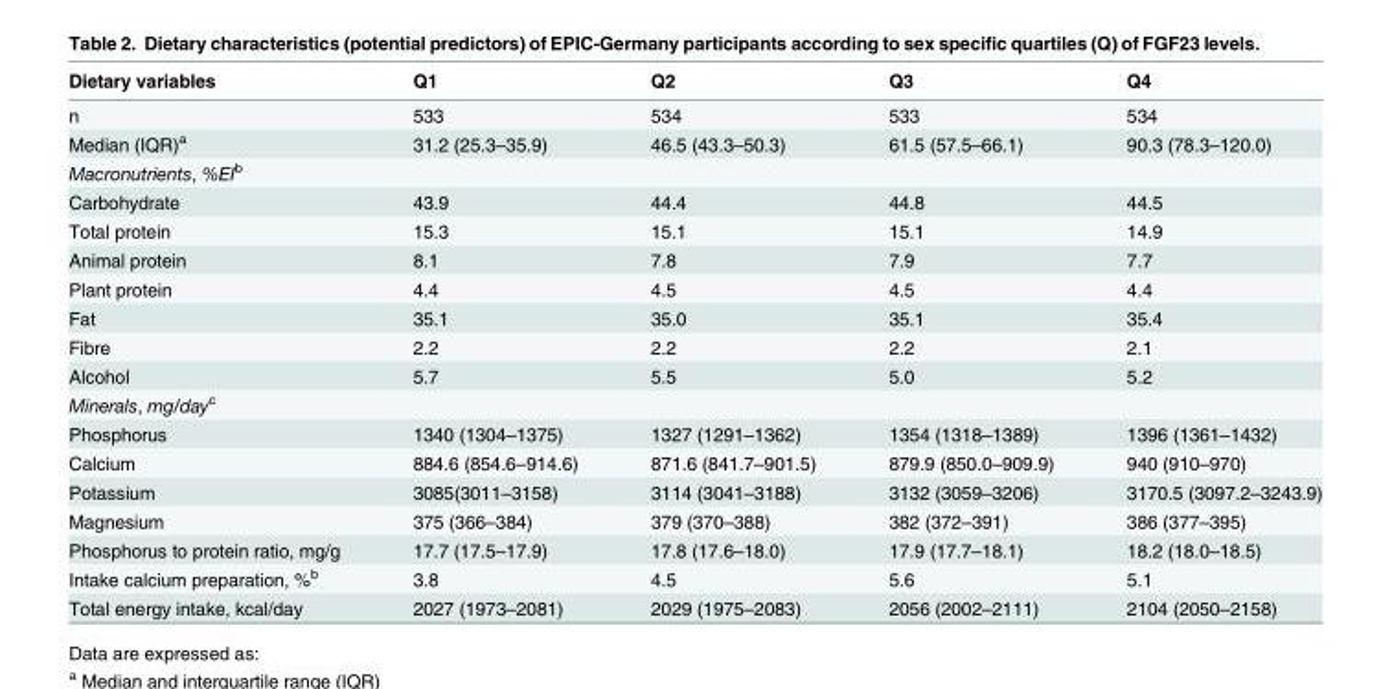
<table><thead><tr><td>Dietary variables</td><td>Q1</td><td>Q2</td><td>Q3</td><td>Q4</td></tr></thead><tbody><tr><td>n</td><td>533</td><td>534</td><td>533</td><td>534</td></tr><tr><td>Median (IQR)<sup>a</sup></td><td>31.2 (25.3–35.9)</td><td>46.5 (43.3–50.3)</td><td>61.5 (57.5–66.1)</td><td>90.3 (78.3–120.0)</td></tr><tr><td colspan="5">Macronutrients, %EI<sup>b</sup></td></tr><tr><td>Carbohydrate</td><td>43.9</td><td>44.4</td><td>44.8</td><td>44.5</td></tr><tr><td>Total protein</td><td>15.3</td><td>15.1</td><td>15.1</td><td>14.9</td></tr><tr><td>Animal protein</td><td>8.1</td><td>7.8</td><td>7.9</td><td>7.7</td></tr><tr><td>Plant protein</td><td>4.4</td><td>4.5</td><td>4.5</td><td>4.4</td></tr><tr><td>Fat</td><td>35.1</td><td>35.0</td><td>35.1</td><td>35.4</td></tr><tr><td>Fibre</td><td>2.2</td><td>2.2</td><td>2.2</td><td>2.1</td></tr><tr><td>Alcohol</td><td>5.7</td><td>5.5</td><td>5.0</td><td>5.2</td></tr><tr><td colspan="5">Minerals, mg/day<sup>c</sup></td></tr><tr><td>Phosphorus</td><td>1340 (1304–1375)</td><td>1327 (1291–1362)</td><td>1354 (1318–1389)</td><td>1396 (1361–1432)</td></tr><tr><td>Calcium</td><td>884.6 (854.6–914.6)</td><td>871.6 (841.7–901.5)</td><td>879.9 (850.0–909.9)</td><td>940 (910–970)</td></tr><tr><td>Potassium</td><td>3085(3011–3158)</td><td>3114 (3041–3188)</td><td>3132 (3059–3206)</td><td>3170.5 (3097.2–3243.9)</td></tr><tr><td>Magnesium</td><td>375 (366–384)</td><td>379 (370–388)</td><td>382 (372–391)</td><td>386 (377–395)</td></tr><tr><td>Phosphorus to protein ratio, mg/g</td><td>17.7 (17.5–17.9)</td><td>17.8 (17.6–18.0)</td><td>17.9 (17.7–18.1)</td><td>18.2 (18.0–18.5)</td></tr><tr><td>Intake calcium preparation, %<sup>b</sup></td><td>3.8</td><td>4.5</td><td>5.6</td><td>5.1</td></tr><tr><td>Total energy intake, kcal/day</td><td>2027 (1973–2081)</td><td>2029 (1975–2083)</td><td>2056 (2002–2111)</td><td>2104 (2050–2158)</td></tr></tbody></table>